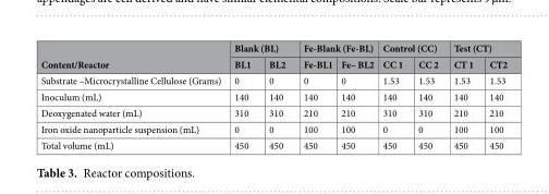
<table><thead><tr><td rowspan="2">Content/Reactor</td><td colspan="2">Blank (BL)</td><td colspan="2">Fe-Blank (Fe-BL)</td><td colspan="2">Control (CC)</td><td colspan="2">Test (CT)</td></tr><tr><td>BL1</td><td>BL2</td><td>Fe-BL1</td><td>Fe– BL2</td><td>CC 1</td><td>CC 2</td><td>CT 1</td><td>CT2</td></tr></thead><tbody><tr><td>Substrate –Microcrystalline Cellulose (Grams)</td><td>0</td><td>0</td><td>0</td><td>0</td><td>1.53</td><td>1.53</td><td>1.53</td><td>1.53</td></tr><tr><td>Inoculum (mL)</td><td>140</td><td>140</td><td>140</td><td>140</td><td>140</td><td>140</td><td>140</td><td>140</td></tr><tr><td>Deoxygenated water (mL)</td><td>310</td><td>310</td><td>210</td><td>210</td><td>310</td><td>310</td><td>210</td><td>210</td></tr><tr><td>Iron oxide nanoparticle suspension (mL)</td><td>0</td><td>0</td><td>100</td><td>100</td><td>0</td><td>0</td><td>100</td><td>100</td></tr><tr><td>Total volume (mL)</td><td>450</td><td>450</td><td>450</td><td>450</td><td>450</td><td>450</td><td>450</td><td>450</td></tr></tbody></table>